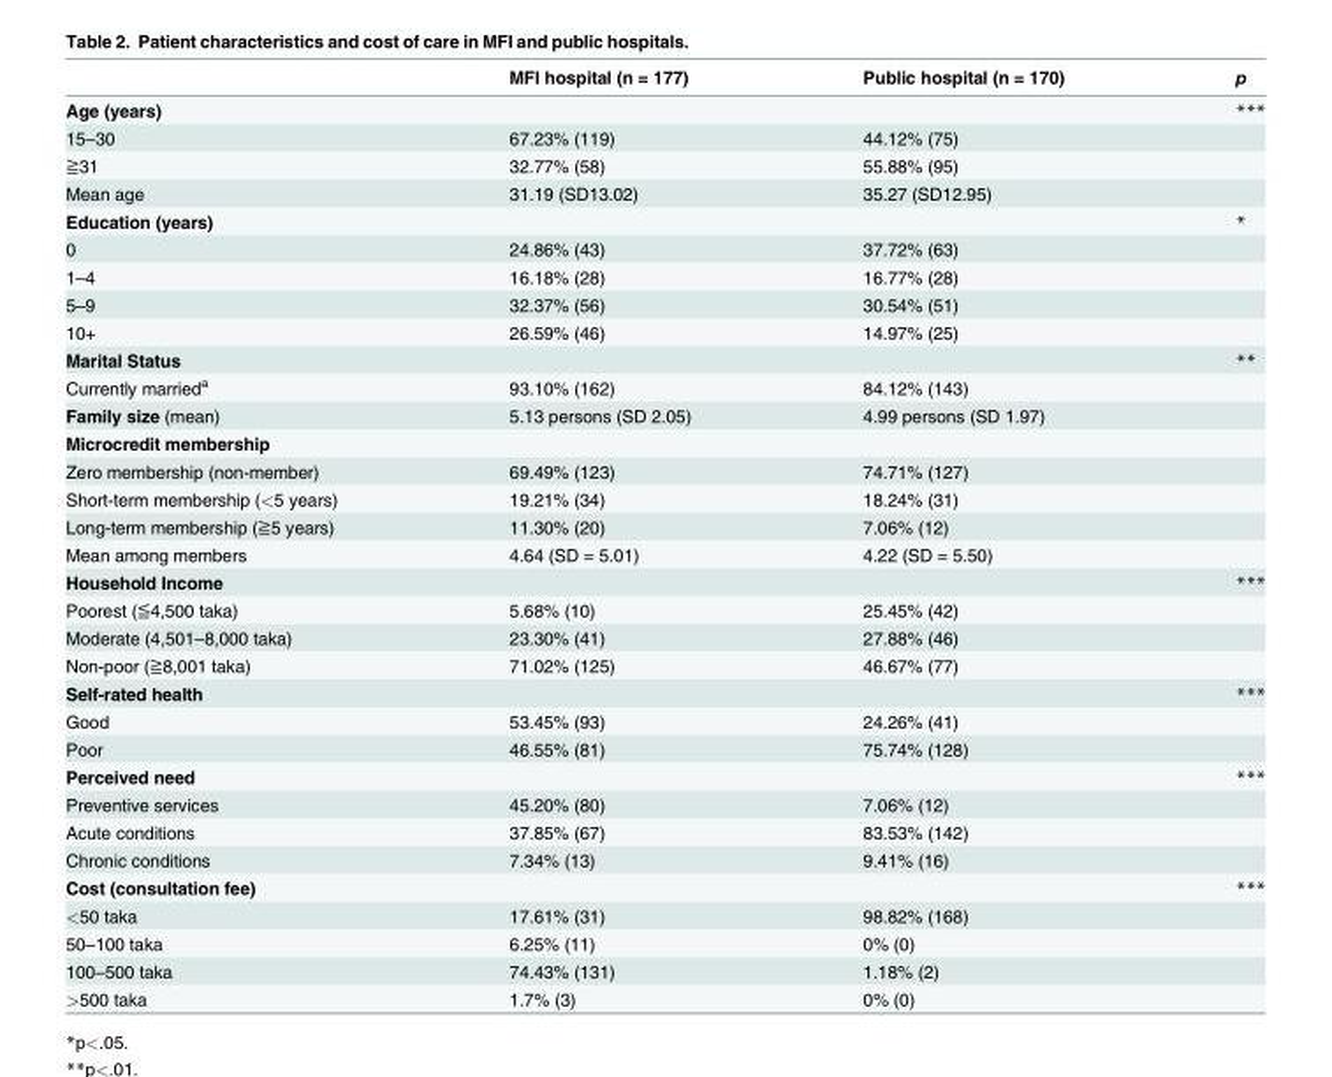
<table><thead><tr><td></td><td>MFI hospital (n = 177)</td><td>Public hospital (n = 170)</td><td>p</td></tr></thead><tbody><tr><td>Age (years)</td><td></td><td></td><td>***</td></tr><tr><td>15–30</td><td>67.23% (119)</td><td>44.12% (75)</td><td></td></tr><tr><td>≧31</td><td>32.77% (58)</td><td>55.88% (95)</td><td></td></tr><tr><td>Mean age</td><td>31.19 (SD13.02)</td><td>35.27 (SD12.95)</td><td></td></tr><tr><td>Education (years)</td><td></td><td></td><td>*</td></tr><tr><td>0</td><td>24.86% (43)</td><td>37.72% (63)</td><td></td></tr><tr><td>1–4</td><td>16.18% (28)</td><td>16.77% (28)</td><td></td></tr><tr><td>5–9</td><td>32.37% (56)</td><td>30.54% (51)</td><td></td></tr><tr><td>10+</td><td>26.59% (46)</td><td>14.97% (25)</td><td></td></tr><tr><td>Marital Status</td><td></td><td></td><td>**</td></tr><tr><td>Currently married<sup>a</sup></td><td>93.10% (162)</td><td>84.12% (143)</td><td></td></tr><tr><td>Family size (mean)</td><td>5.13 persons (SD 2.05)</td><td>4.99 persons (SD 1.97)</td><td></td></tr><tr><td colspan="4">Microcredit membership</td></tr><tr><td>Zero membership (non-member)</td><td>69.49% (123)</td><td>74.71% (127)</td><td></td></tr><tr><td>Short-term membership (&lt;5 years)</td><td>19.21% (34)</td><td>18.24% (31)</td><td></td></tr><tr><td>Long-term membership (≧5 years)</td><td>11.30% (20)</td><td>7.06% (12)</td><td></td></tr><tr><td>Mean among members</td><td>4.64 (SD = 5.01)</td><td>4.22 (SD = 5.50)</td><td></td></tr><tr><td>Household Income</td><td></td><td></td><td>***</td></tr><tr><td>Poorest (≦4,500 taka)</td><td>5.68% (10)</td><td>25.45% (42)</td><td></td></tr><tr><td>Moderate (4,501–8,000 taka)</td><td>23.30% (41)</td><td>27.88% (46)</td><td></td></tr><tr><td>Non-poor (≧8,001 taka)</td><td>71.02% (125)</td><td>46.67% (77)</td><td></td></tr><tr><td>Self-rated health</td><td></td><td></td><td>***</td></tr><tr><td>Good</td><td>53.45% (93)</td><td>24.26% (41)</td><td></td></tr><tr><td>Poor</td><td>46.55% (81)</td><td>75.74% (128)</td><td></td></tr><tr><td>Perceived need</td><td></td><td></td><td>***</td></tr><tr><td>Preventive services</td><td>45.20% (80)</td><td>7.06% (12)</td><td></td></tr><tr><td>Acute conditions</td><td>37.85% (67)</td><td>83.53% (142)</td><td></td></tr><tr><td>Chronic conditions</td><td>7.34% (13)</td><td>9.41% (16)</td><td></td></tr><tr><td>Cost (consultation fee)</td><td></td><td></td><td>***</td></tr><tr><td>&lt;50 taka</td><td>17.61% (31)</td><td>98.82% (168)</td><td></td></tr><tr><td>50–100 taka</td><td>6.25% (11)</td><td>0% (0)</td><td></td></tr><tr><td>100–500 taka</td><td>74.43% (131)</td><td>1.18% (2)</td><td></td></tr><tr><td>&gt;500 taka</td><td>1.7% (3)</td><td>0% (0)</td><td></td></tr></tbody></table>